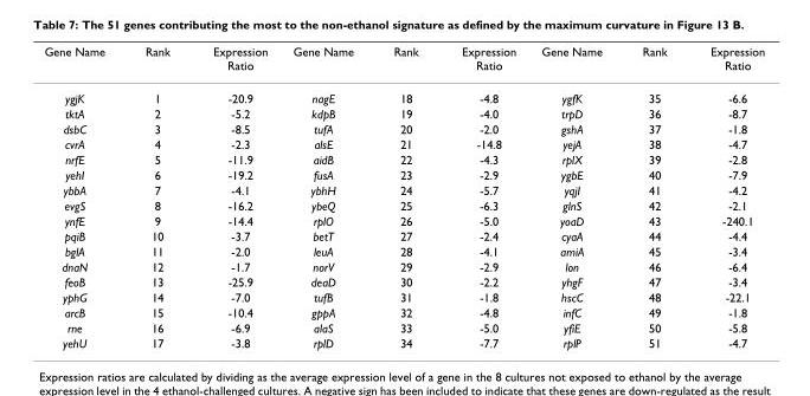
<table><thead><tr><td>Gene Name</td><td>Rank</td><td>Expression Ratio</td><td>Gene Name</td><td>Rank</td><td>Expression Ratio</td><td>Gene Name</td><td>Rank</td><td>Expression Ratio</td></tr></thead><tbody><tr><td>ygjK</td><td>1</td><td>-20.9</td><td>nagE</td><td>18</td><td>-4.8</td><td>ygfK</td><td>35</td><td>-6.6</td></tr><tr><td>tktA</td><td>2</td><td>-5.2</td><td>kdpB</td><td>19</td><td>-4.0</td><td>trpD</td><td>36</td><td>-8.7</td></tr><tr><td>dsbC</td><td>3</td><td>-8.5</td><td>tufA</td><td>20</td><td>-2.0</td><td>gshA</td><td>37</td><td>-1.8</td></tr><tr><td>cvrA</td><td>4</td><td>-2.3</td><td>alsE</td><td>21</td><td>-14.8</td><td>yejA</td><td>38</td><td>-4.7</td></tr><tr><td>nrfE</td><td>5</td><td>-11.9</td><td>aidB</td><td>22</td><td>-4.3</td><td>rplX</td><td>39</td><td>-2.8</td></tr><tr><td>yehI</td><td>6</td><td>-19.2</td><td>fusA</td><td>23</td><td>-2.9</td><td>ygbE</td><td>40</td><td>-7.9</td></tr><tr><td>ybbA</td><td>7</td><td>-4.1</td><td>ybhH</td><td>24</td><td>-5.7</td><td>yqjI</td><td>41</td><td>-4.2</td></tr><tr><td>evgS</td><td>8</td><td>-16.2</td><td>ybeQ</td><td>25</td><td>-6.3</td><td>glnS</td><td>42</td><td>-2.1</td></tr><tr><td>ynfE</td><td>9</td><td>-14.4</td><td>rplO</td><td>26</td><td>-5.0</td><td>yoaD</td><td>43</td><td>-240.1</td></tr><tr><td>pqiB</td><td>10</td><td>-3.7</td><td>betT</td><td>27</td><td>-2.4</td><td>cyaA</td><td>44</td><td>-4.4</td></tr><tr><td>bglA</td><td>11</td><td>-2.0</td><td>leuA</td><td>28</td><td>-4.1</td><td>amiA</td><td>45</td><td>-3.4</td></tr><tr><td>dnaN</td><td>12</td><td>-1.7</td><td>norV</td><td>29</td><td>-2.9</td><td>lon</td><td>46</td><td>-6.4</td></tr><tr><td>feoB</td><td>13</td><td>-25.9</td><td>deaD</td><td>30</td><td>-2.2</td><td>yhgF</td><td>47</td><td>-3.4</td></tr><tr><td>yphG</td><td>14</td><td>-7.0</td><td>tufB</td><td>31</td><td>-1.8</td><td>hscC</td><td>48</td><td>-22.1</td></tr><tr><td>arcB</td><td>15</td><td>-10.4</td><td>gppA</td><td>32</td><td>-4.8</td><td>infC</td><td>49</td><td>-1.8</td></tr><tr><td>rne</td><td>16</td><td>-6.9</td><td>alaS</td><td>33</td><td>-5.0</td><td>yfiE</td><td>50</td><td>-5.8</td></tr><tr><td>yehU</td><td>17</td><td>-3.8</td><td>rplD</td><td>34</td><td>-7.7</td><td>rplP</td><td>51</td><td>-4.7</td></tr></tbody></table>